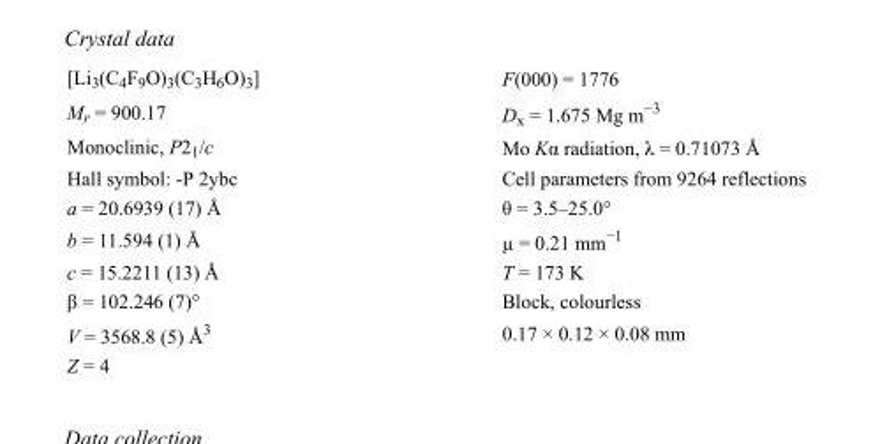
<table><tbody><tr><td>[Li<sub>3</sub>(C<sub>4</sub>F<sub>9</sub>O)<sub>3</sub>(C<sub>3</sub>H<sub>6</sub>O)<sub>3</sub>]</td><td>F(000) = 1776</td></tr><tr><td>M<sub>r</sub> = 900.17</td><td>D<sub>x</sub> = 1.675 Mg m<sup>−3</sup></td></tr><tr><td>Monoclinic, P2<sub>1</sub>/c</td><td>Mo Kα radiation, λ = 0.71073 Å</td></tr><tr><td>Hall symbol: -P 2ybc</td><td>Cell parameters from 9264 reflections</td></tr><tr><td>a = 20.6939 (17) Å</td><td>θ = 3.5–25.0°</td></tr><tr><td>b = 11.594 (1) Å</td><td>µ = 0.21 mm<sup>−1</sup></td></tr><tr><td>c = 15.2211 (13) Å</td><td>T = 173 K</td></tr><tr><td>β = 102.246 (7)°</td><td>Block, colourless</td></tr><tr><td>V = 3568.8 (5) Å<sup>3</sup></td><td>0.17 × 0.12 × 0.08 mm</td></tr><tr><td>Z = 4</td><td></td></tr></tbody></table>